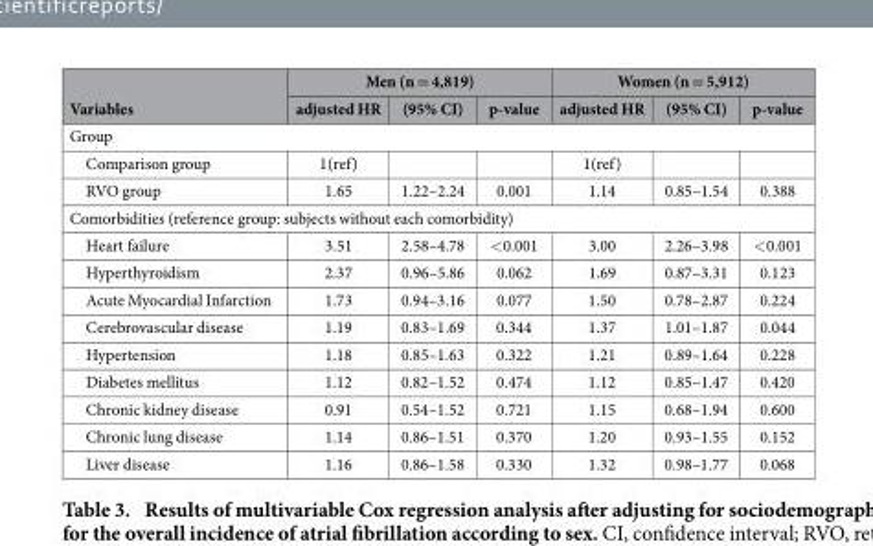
<table><thead><tr><td rowspan="2">Variables</td><td colspan="3">Men (n = 4,819)</td><td colspan="3">Women (n = 5,912)</td></tr><tr><td>adjusted HR</td><td>(95% CI)</td><td>p-value</td><td>adjusted HR</td><td>(95% CI)</td><td>p-value</td></tr></thead><tbody><tr><td colspan="7">Group</td></tr><tr><td>Comparison group</td><td>1(ref)</td><td></td><td></td><td>1(ref)</td><td></td><td></td></tr><tr><td>RVO group</td><td>1.65</td><td>1.22–2.24</td><td>0.001</td><td>1.14</td><td>0.85–1.54</td><td>0.388</td></tr><tr><td colspan="7">Comorbidities (reference group: subjects without each comorbidity)</td></tr><tr><td>Heart failure</td><td>3.51</td><td>2.58–4.78</td><td>&lt; 0.001</td><td>3.00</td><td>2.26–3.98</td><td>&lt; 0.001</td></tr><tr><td>Hyperthyroidism</td><td>2.37</td><td>0.96–5.86</td><td>0.062</td><td>1.69</td><td>0.87–3.31</td><td>0.123</td></tr><tr><td>Acute Myocardial Infarction</td><td>1.73</td><td>0.94–3.16</td><td>0.077</td><td>1.50</td><td>0.78–2.87</td><td>0.224</td></tr><tr><td>Cerebrovascular disease</td><td>1.19</td><td>0.83–1.69</td><td>0.344</td><td>1.37</td><td>1.01–1.87</td><td>0.044</td></tr><tr><td>Hypertension</td><td>1.18</td><td>0.85–1.63</td><td>0.322</td><td>1.21</td><td>0.89–1.64</td><td>0.228</td></tr><tr><td>Diabetes mellitus</td><td>1.12</td><td>0.82–1.52</td><td>0.474</td><td>1.12</td><td>0.85–1.47</td><td>0.420</td></tr><tr><td>Chronic kidney disease</td><td>0.91</td><td>0.54–1.52</td><td>0.721</td><td>1.15</td><td>0.68–1.94</td><td>0.600</td></tr><tr><td>Chronic lung disease</td><td>1.14</td><td>0.86–1.51</td><td>0.370</td><td>1.20</td><td>0.93–1.55</td><td>0.152</td></tr><tr><td>Liver disease</td><td>1.16</td><td>0.86–1.58</td><td>0.330</td><td>1.32</td><td>0.98–1.77</td><td>0.068</td></tr></tbody></table>